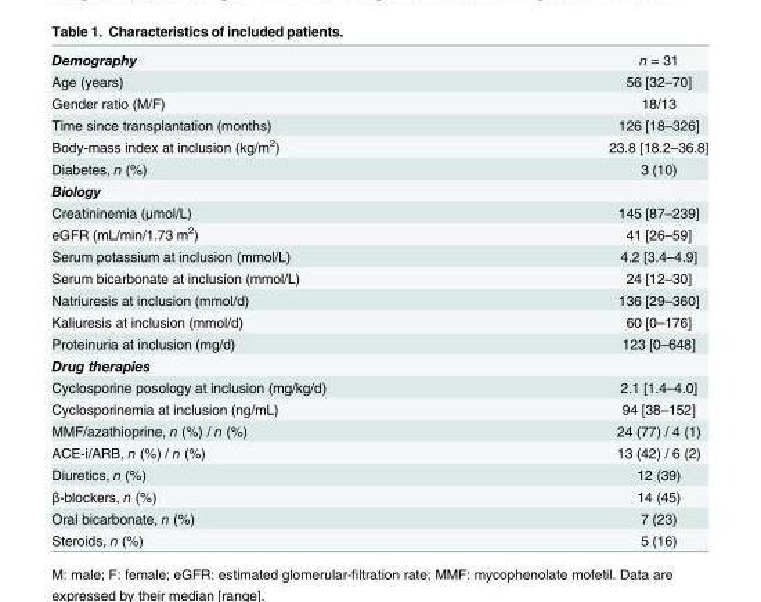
<table><tbody><tr><td>Demography</td><td>n = 31</td></tr><tr><td>Age (years)</td><td>56 [32–70]</td></tr><tr><td>Gender ratio (M/F)</td><td>18/13</td></tr><tr><td>Time since transplantation (months)</td><td>126 [18–326]</td></tr><tr><td>Body-mass index at inclusion (kg/m<sup>2</sup>)</td><td>23.8 [18.2–36.8]</td></tr><tr><td>Diabetes, n (%)</td><td>3 (10)</td></tr><tr><td colspan="2">Biology</td></tr><tr><td>Creatininemia (μmol/L)</td><td>145 [87–239]</td></tr><tr><td>eGFR (mL/min/1.73 m<sup>2</sup>)</td><td>41 [26–59]</td></tr><tr><td>Serum potassium at inclusion (mmol/L)</td><td>4.2 [3.4–4.9]</td></tr><tr><td>Serum bicarbonate at inclusion (mmol/L)</td><td>24 [12–30]</td></tr><tr><td>Natriuresis at inclusion (mmol/d)</td><td>136 [29–360]</td></tr><tr><td>Kaliuresis at inclusion (mmol/d)</td><td>60 [0–176]</td></tr><tr><td>Proteinuria at inclusion (mg/d)</td><td>123 [0–648]</td></tr><tr><td colspan="2">Drug therapies</td></tr><tr><td>Cyclosporine posology at inclusion (mg/kg/d)</td><td>2.1 [1.4–4.0]</td></tr><tr><td>Cyclosporinemia at inclusion (ng/mL)</td><td>94 [38–152]</td></tr><tr><td>MMF/azathioprine, n (%) / n (%)</td><td>24 (77) / 4 (1)</td></tr><tr><td>ACE-i/ARB, n (%) / n (%)</td><td>13 (42) / 6 (2)</td></tr><tr><td>Diuretics, n (%)</td><td>12 (39)</td></tr><tr><td>β-blockers, n (%)</td><td>14 (45)</td></tr><tr><td>Oral bicarbonate, n (%)</td><td>7 (23)</td></tr><tr><td>Steroids, n (%)</td><td>5 (16)</td></tr></tbody></table>